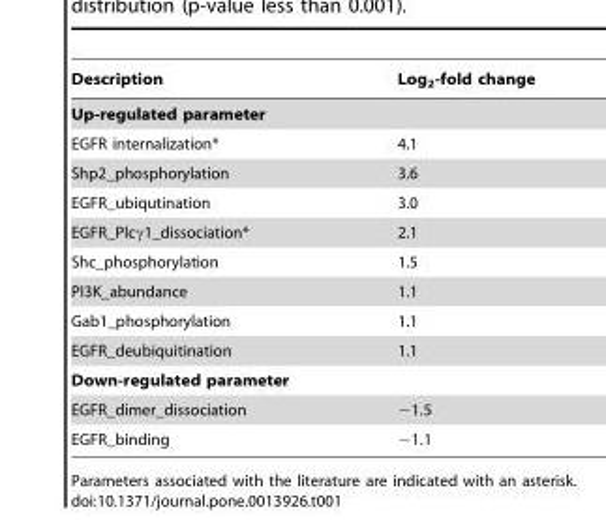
<table><thead><tr><td>Description</td><td>Log<sub>2</sub>-fold change</td></tr></thead><tbody><tr><td colspan="2">Up-regulated parameter</td></tr><tr><td>EGFR internalization*</td><td>4.1</td></tr><tr><td>Shp2_phosphorylation</td><td>3.6</td></tr><tr><td>EGFR_ubiqutination</td><td>3.0</td></tr><tr><td>EGFR_Plcγ1_dissociation*</td><td>2.1</td></tr><tr><td>Shc_phosphorylation</td><td>1.5</td></tr><tr><td>PI3K_abundance</td><td>1.1</td></tr><tr><td>Gab1_phosphorylation</td><td>1.1</td></tr><tr><td>EGFR_deubiquitination</td><td>1.1</td></tr><tr><td colspan="2">Down-regulated parameter</td></tr><tr><td>EGFR_dimer_dissociation</td><td>−1.5</td></tr><tr><td>EGFR_binding</td><td>−1.1</td></tr></tbody></table>